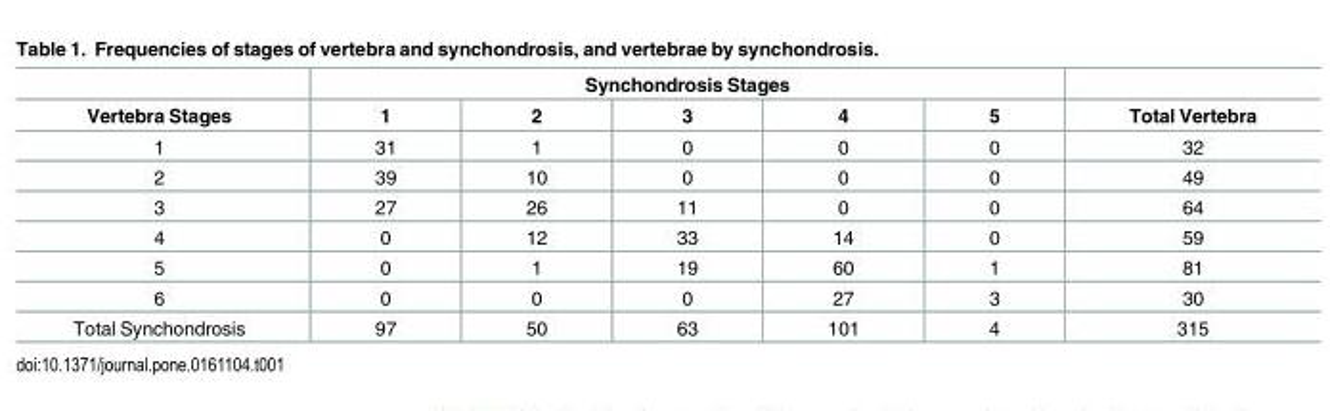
<table><thead><tr><td rowspan="2">Vertebra Stages</td><td colspan="5">Synchondrosis Stages</td><td rowspan="2">Total Vertebra</td></tr><tr><td>1</td><td>2</td><td>3</td><td>4</td><td>5</td></tr></thead><tbody><tr><td>1</td><td>31</td><td>1</td><td>0</td><td>0</td><td>0</td><td>32</td></tr><tr><td>2</td><td>39</td><td>10</td><td>0</td><td>0</td><td>0</td><td>49</td></tr><tr><td>3</td><td>27</td><td>26</td><td>11</td><td>0</td><td>0</td><td>64</td></tr><tr><td>4</td><td>0</td><td>12</td><td>33</td><td>14</td><td>0</td><td>59</td></tr><tr><td>5</td><td>0</td><td>1</td><td>19</td><td>60</td><td>1</td><td>81</td></tr><tr><td>6</td><td>0</td><td>0</td><td>0</td><td>27</td><td>3</td><td>30</td></tr><tr><td>Total Synchondrosis</td><td>97</td><td>50</td><td>63</td><td>101</td><td>4</td><td>315</td></tr></tbody></table>